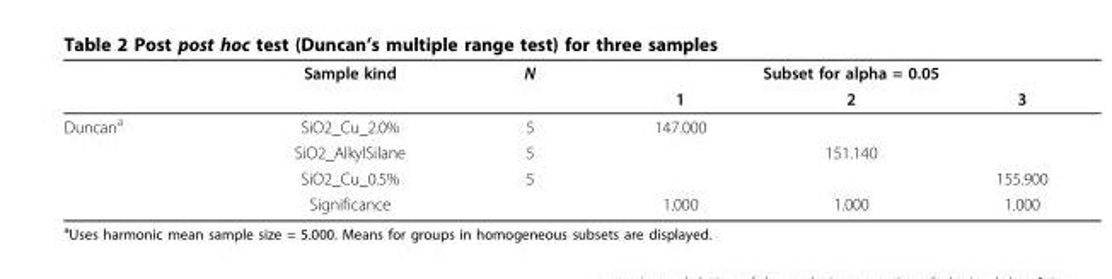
<table><thead><tr><td rowspan="2"></td><td rowspan="2">Sample kind</td><td rowspan="2">N</td><td colspan="3">Subset for alpha = 0.05</td></tr><tr><td>1</td><td>2</td><td>3</td></tr></thead><tbody><tr><td rowspan="4">Duncan<sup>a</sup></td><td>SiO2_Cu_2.0%</td><td>5</td><td>147.000</td><td></td><td></td></tr><tr><td>SiO2_AlkylSilane</td><td>5</td><td></td><td>151.140</td><td></td></tr><tr><td>SiO2_Cu_0.5%</td><td>5</td><td></td><td></td><td>155.900</td></tr><tr><td>Significance</td><td></td><td>1.000</td><td>1.000</td><td>1.000</td></tr></tbody></table>